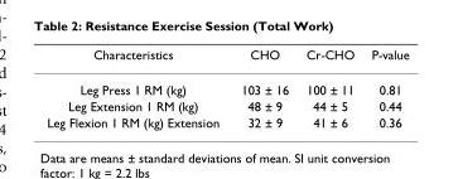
<table><thead><tr><td>Characteristics</td><td>CHO</td><td>Cr-CHO</td><td>P-value</td></tr></thead><tbody><tr><td>Leg Press 1 RM (kg)</td><td>103 ± 16</td><td>100 ± 11</td><td>0.81</td></tr><tr><td>Leg Extension 1 RM (kg)</td><td>48 ± 9</td><td>44 ± 5</td><td>0.44</td></tr><tr><td>Leg Flexion 1 RM (kg) Extension</td><td>32 ± 9</td><td>41 ± 6</td><td>0.36</td></tr></tbody></table>